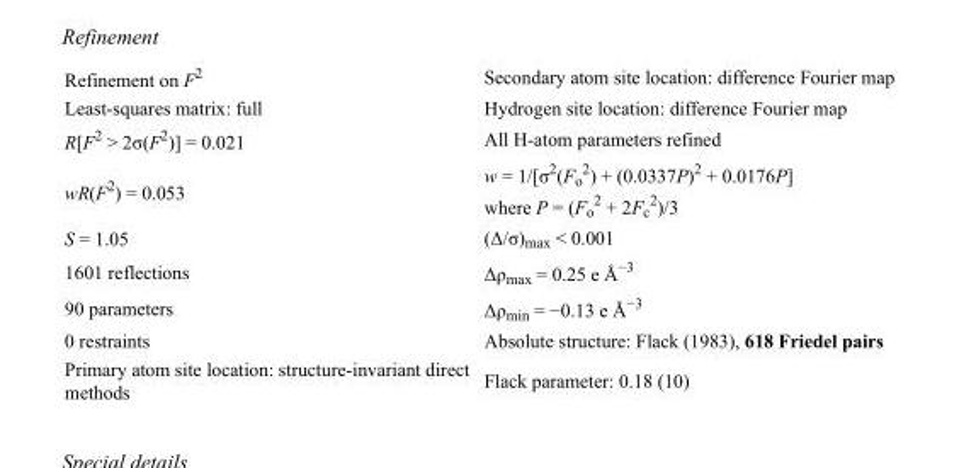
<table><tbody><tr><td>Refinement on F<sup>2</sup></td><td>Secondary atom site location: difference Fourier map</td></tr><tr><td>Least-squares matrix: full</td><td>Hydrogen site location: difference Fourier map</td></tr><tr><td>R[F<sup>2</sup> &gt; 2σ(F<sup>2</sup>)] = 0.021</td><td>All H-atom parameters refined</td></tr><tr><td>wR(F<sup>2</sup>) = 0.053</td><td>w = 1/[σ<sup>2</sup>(F<sub>o</sub> <sup>2</sup>) + (0.0337P)<sup>2</sup> + 0.0176P] where P = (F<sub>o</sub> <sup>2</sup> + 2F<sub>c</sub> <sup>2</sup>)/3</td></tr><tr><td>S = 1.05</td><td>(Δ/σ)<sub>max</sub> &lt; 0.001</td></tr><tr><td>1601 reflections</td><td>Δρ<sub>max</sub> = 0.25 e Å<sup>−3</sup></td></tr><tr><td>90 parameters</td><td>Δρ<sub>min</sub> = −0.13 e Å<sup>−3</sup></td></tr><tr><td>0 restraints</td><td>Absolute structure: Flack (1983), 618 Friedel pairs</td></tr><tr><td>Primary atom site location: structure-invariant direct methods</td><td>Flack parameter: 0.18 (10)</td></tr></tbody></table>